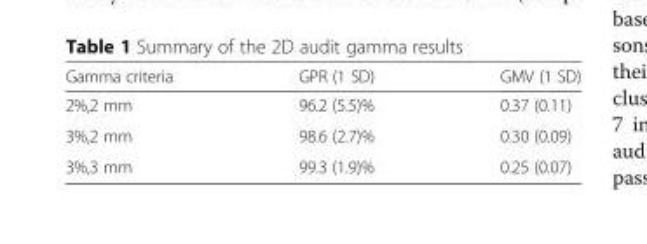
<table><thead><tr><td>Gamma criteria</td><td>GPR (1 SD)</td><td>GMV (1 SD)</td></tr></thead><tbody><tr><td>2%,2 mm</td><td>96.2 (5.5)%</td><td>0.37 (0.11)</td></tr><tr><td>3%,2 mm</td><td>98.6 (2.7)%</td><td>0.30 (0.09)</td></tr><tr><td>3%,3 mm</td><td>99.3 (1.9)%</td><td>0.25 (0.07)</td></tr></tbody></table>